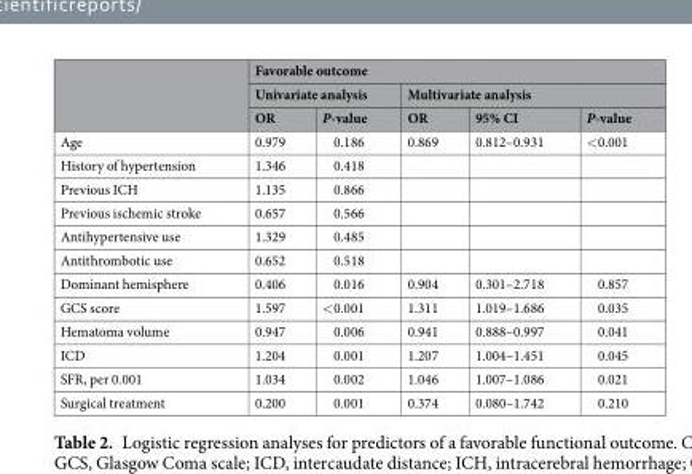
<table><thead><tr><td rowspan="3"></td><td colspan="5">Favorable outcome</td></tr><tr><td colspan="2">Univariate analysis</td><td colspan="3">Multivariate analysis</td></tr><tr><td>OR</td><td>P-value</td><td>OR</td><td>95% CI</td><td>P-value</td></tr></thead><tbody><tr><td>Age</td><td>0.979</td><td>0.186</td><td>0.869</td><td>0.812–0.931</td><td>&lt;0.001</td></tr><tr><td>History of hypertension</td><td>1.346</td><td>0.418</td><td></td><td></td><td></td></tr><tr><td>Previous ICH</td><td>1.135</td><td>0.866</td><td></td><td></td><td></td></tr><tr><td>Previous ischemic stroke</td><td>0.657</td><td>0.566</td><td></td><td></td><td></td></tr><tr><td>Antihypertensive use</td><td>1.329</td><td>0.485</td><td></td><td></td><td></td></tr><tr><td>Antithrombotic use</td><td>0.652</td><td>0.518</td><td></td><td></td><td></td></tr><tr><td>Dominant hemisphere</td><td>0.406</td><td>0.016</td><td>0.904</td><td>0.301–2.718</td><td>0.857</td></tr><tr><td>GCS score</td><td>1.597</td><td>&lt;0.001</td><td>1.311</td><td>1.019–1.686</td><td>0.035</td></tr><tr><td>Hematoma volume</td><td>0.947</td><td>0.006</td><td>0.941</td><td>0.888–0.997</td><td>0.041</td></tr><tr><td>ICD</td><td>1.204</td><td>0.001</td><td>1.207</td><td>1.004–1.451</td><td>0.045</td></tr><tr><td>SFR, per 0.001</td><td>1.034</td><td>0.002</td><td>1.046</td><td>1.007–1.086</td><td>0.021</td></tr><tr><td>Surgical treatment</td><td>0.200</td><td>0.001</td><td>0.374</td><td>0.080–1.742</td><td>0.210</td></tr></tbody></table>